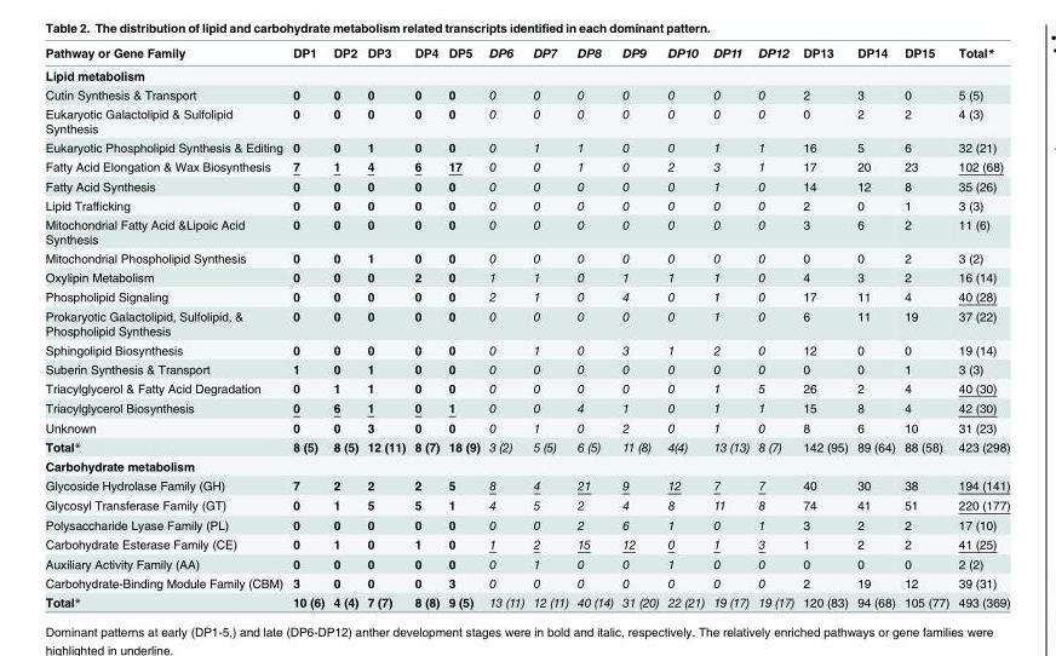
<table><thead><tr><td>Pathway or Gene Family</td><td>DP1</td><td>DP2</td><td>DP3</td><td>DP4</td><td>DP5</td><td>DP6</td><td>DP7</td><td>DP8</td><td>DP9</td><td>DP10</td><td>DP11</td><td>DP12</td><td>DP13</td><td>DP14</td><td>DP15</td><td>Total*</td></tr></thead><tbody><tr><td colspan="17">Lipid metabolism</td></tr><tr><td>Cutin Synthesis &amp; Transport</td><td>0</td><td>0</td><td>0</td><td>0</td><td>0</td><td>0</td><td>0</td><td>0</td><td>0</td><td>0</td><td>0</td><td>0</td><td>2</td><td>3</td><td>0</td><td>5 (5)</td></tr><tr><td>Eukaryotic Galactolipid &amp; Sulfolipid Synthesis</td><td>0</td><td>0</td><td>0</td><td>0</td><td>0</td><td>0</td><td>0</td><td>0</td><td>0</td><td>0</td><td>0</td><td>0</td><td>0</td><td>2</td><td>2</td><td>4 (3)</td></tr><tr><td>Eukaryotic Phospholipid Synthesis &amp; Editing</td><td>0</td><td>0</td><td>1</td><td>0</td><td>0</td><td>0</td><td>1</td><td>1</td><td>0</td><td>0</td><td>1</td><td>1</td><td>16</td><td>5</td><td>6</td><td>32 (21)</td></tr><tr><td>Fatty Acid Elongation &amp; Wax Biosynthesis</td><td>7</td><td>1</td><td>4</td><td>6</td><td>17</td><td>0</td><td>0</td><td>1</td><td>0</td><td>2</td><td>3</td><td>1</td><td>17</td><td>20</td><td>23</td><td>102 (68)</td></tr><tr><td>Fatty Acid Synthesis</td><td>0</td><td>0</td><td>0</td><td>0</td><td>0</td><td>0</td><td>0</td><td>0</td><td>0</td><td>0</td><td>1</td><td>0</td><td>14</td><td>12</td><td>8</td><td>35 (26)</td></tr><tr><td>Lipid Trafficking</td><td>0</td><td>0</td><td>0</td><td>0</td><td>0</td><td>0</td><td>0</td><td>0</td><td>0</td><td>0</td><td>0</td><td>0</td><td>2</td><td>0</td><td>1</td><td>3 (3)</td></tr><tr><td>Mitochondrial Fatty Acid &amp;Lipoic Acid Synthesis</td><td>0</td><td>0</td><td>0</td><td>0</td><td>0</td><td>0</td><td>0</td><td>0</td><td>0</td><td>0</td><td>0</td><td>0</td><td>3</td><td>6</td><td>2</td><td>11 (6)</td></tr><tr><td>Mitochondrial Phospholipid Synthesis</td><td>0</td><td>0</td><td>1</td><td>0</td><td>0</td><td>0</td><td>0</td><td>0</td><td>0</td><td>0</td><td>0</td><td>0</td><td>0</td><td>0</td><td>2</td><td>3 (2)</td></tr><tr><td>Oxylipin Metabolism</td><td>0</td><td>0</td><td>0</td><td>2</td><td>0</td><td>1</td><td>1</td><td>0</td><td>1</td><td>1</td><td>1</td><td>0</td><td>4</td><td>3</td><td>2</td><td>16 (14)</td></tr><tr><td>Phospholipid Signaling</td><td>0</td><td>0</td><td>0</td><td>0</td><td>0</td><td>2</td><td>1</td><td>0</td><td>4</td><td>0</td><td>1</td><td>0</td><td>17</td><td>11</td><td>4</td><td>40 (28)</td></tr><tr><td>Prokaryotic Galactolipid, Sulfolipid, &amp; Phospholipid Synthesis</td><td>0</td><td>0</td><td>0</td><td>0</td><td>0</td><td>0</td><td>0</td><td>0</td><td>0</td><td>0</td><td>1</td><td>0</td><td>6</td><td>11</td><td>19</td><td>37 (22)</td></tr><tr><td>Sphingolipid Biosynthesis</td><td>0</td><td>0</td><td>0</td><td>0</td><td>0</td><td>0</td><td>1</td><td>0</td><td>3</td><td>1</td><td>2</td><td>0</td><td>12</td><td>0</td><td>0</td><td>19 (14)</td></tr><tr><td>Suberin Synthesis &amp; Transport</td><td>1</td><td>0</td><td>1</td><td>0</td><td>0</td><td>0</td><td>0</td><td>0</td><td>0</td><td>0</td><td>0</td><td>0</td><td>0</td><td>0</td><td>1</td><td>3 (3)</td></tr><tr><td>Triacylglycerol &amp; Fatty Acid Degradation</td><td>0</td><td>1</td><td>1</td><td>0</td><td>0</td><td>0</td><td>0</td><td>0</td><td>0</td><td>0</td><td>1</td><td>5</td><td>26</td><td>2</td><td>4</td><td>40 (30)</td></tr><tr><td>Triacylglycerol Biosynthesis</td><td>0</td><td>6</td><td>1</td><td>0</td><td>1</td><td>0</td><td>0</td><td>4</td><td>1</td><td>0</td><td>1</td><td>1</td><td>15</td><td>8</td><td>4</td><td>42 (30)</td></tr><tr><td>Unknown</td><td>0</td><td>0</td><td>3</td><td>0</td><td>0</td><td>0</td><td>1</td><td>0</td><td>2</td><td>0</td><td>1</td><td>0</td><td>8</td><td>6</td><td>10</td><td>31 (23)</td></tr><tr><td>Total*</td><td>8 (5)</td><td>8 (5)</td><td>12 (11)</td><td>8 (7)</td><td>18 (9)</td><td>3 (2)</td><td>5 (5)</td><td>6 (5)</td><td>11 (8)</td><td>4(4)</td><td>13 (13)</td><td>8 (7)</td><td>142 (95)</td><td>89 (64)</td><td>88 (58)</td><td>423 (298)</td></tr><tr><td colspan="17">Carbohydrate metabolism</td></tr><tr><td>Glycoside Hydrolase Family (GH)</td><td>7</td><td>2</td><td>2</td><td>2</td><td>5</td><td>8</td><td>4</td><td>21</td><td>9</td><td>12</td><td>7</td><td>7</td><td>40</td><td>30</td><td>38</td><td>194 (141)</td></tr><tr><td>Glycosyl Transferase Family (GT)</td><td>0</td><td>1</td><td>5</td><td>5</td><td>1</td><td>4</td><td>5</td><td>2</td><td>4</td><td>8</td><td>11</td><td>8</td><td>74</td><td>41</td><td>51</td><td>220 (177)</td></tr><tr><td>Polysaccharide Lyase Family (PL)</td><td>0</td><td>0</td><td>0</td><td>0</td><td>0</td><td>0</td><td>0</td><td>2</td><td>6</td><td>1</td><td>0</td><td>1</td><td>3</td><td>2</td><td>2</td><td>17 (10)</td></tr><tr><td>Carbohydrate Esterase Family (CE)</td><td>0</td><td>1</td><td>0</td><td>1</td><td>0</td><td>1</td><td>2</td><td>15</td><td>12</td><td>0</td><td>1</td><td>3</td><td>1</td><td>2</td><td>2</td><td>41 (25)</td></tr><tr><td>Auxiliary Activity Family (AA)</td><td>0</td><td>0</td><td>0</td><td>0</td><td>0</td><td>0</td><td>1</td><td>0</td><td>0</td><td>1</td><td>0</td><td>0</td><td>0</td><td>0</td><td>0</td><td>2 (2)</td></tr><tr><td>Carbohydrate-Binding Module Family (CBM)</td><td>3</td><td>0</td><td>0</td><td>0</td><td>3</td><td>0</td><td>0</td><td>0</td><td>0</td><td>0</td><td>0</td><td>0</td><td>2</td><td>19</td><td>12</td><td>39 (31)</td></tr><tr><td>Total*</td><td>10 (6)</td><td>4 (4)</td><td>7 (7)</td><td>8 (8)</td><td>9 (5)</td><td>13 (11)</td><td>12 (11)</td><td>40 (14)</td><td>31 (20)</td><td>22 (21)</td><td>19 (17)</td><td>19 (17)</td><td>120 (83)</td><td>94 (68)</td><td>105 (77)</td><td>493 (369)</td></tr></tbody></table>